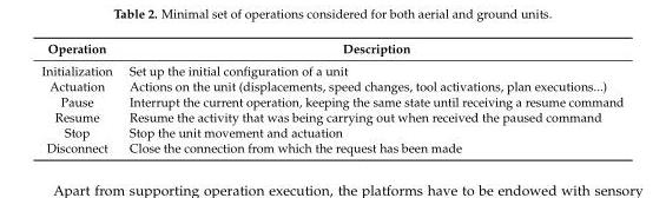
<table><thead><tr><td>Operation</td><td>Description</td></tr></thead><tbody><tr><td>Initialization</td><td>Set up the initial configuration of a unit</td></tr><tr><td>Actuation</td><td>Actions on the unit (displacements, speed changes, tool activations, plan executions...)</td></tr><tr><td>Pause</td><td>Interrupt the current operation, keeping the same state until receiving a resume command</td></tr><tr><td>Resume</td><td>Resume the activity that was being carrying out when received the paused command</td></tr><tr><td>Stop</td><td>Stop the unit movement and actuation</td></tr><tr><td>Disconnect</td><td>Close the connection from which the request has been made</td></tr></tbody></table>